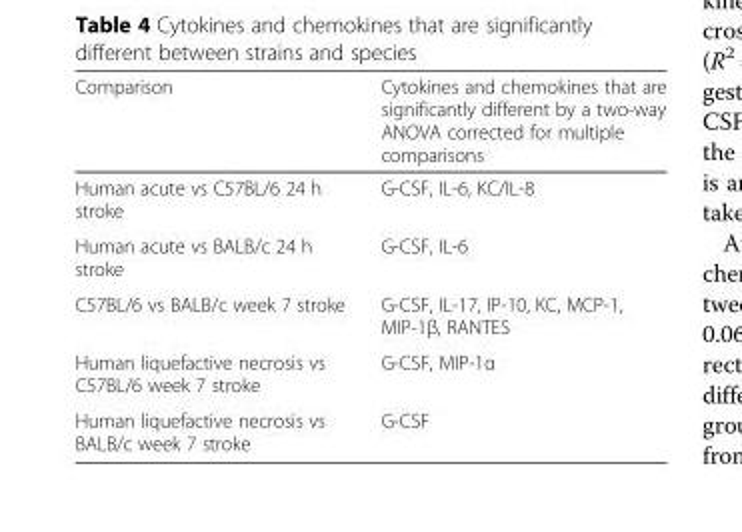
<table><thead><tr><td>Comparison</td><td>Cytokines and chemokines that are significantly different by a two-way ANOVA corrected for multiple comparisons</td></tr></thead><tbody><tr><td>Human acute vs C57BL/6 24 h stroke</td><td>G-CSF, IL-6, KC/IL-8</td></tr><tr><td>Human acute vs BALB/c 24 h stroke</td><td>G-CSF, IL-6</td></tr><tr><td>C57BL/6 vs BALB/c week 7 stroke</td><td>G-CSF, IL-17, IP-10, KC, MCP-1, MIP-1β, RANTES</td></tr><tr><td>Human liquefactive necrosis vs C57BL/6 week 7 stroke</td><td>G-CSF, MIP-1α</td></tr><tr><td>Human liquefactive necrosis vs BALB/c week 7 stroke</td><td>G-CSF</td></tr></tbody></table>